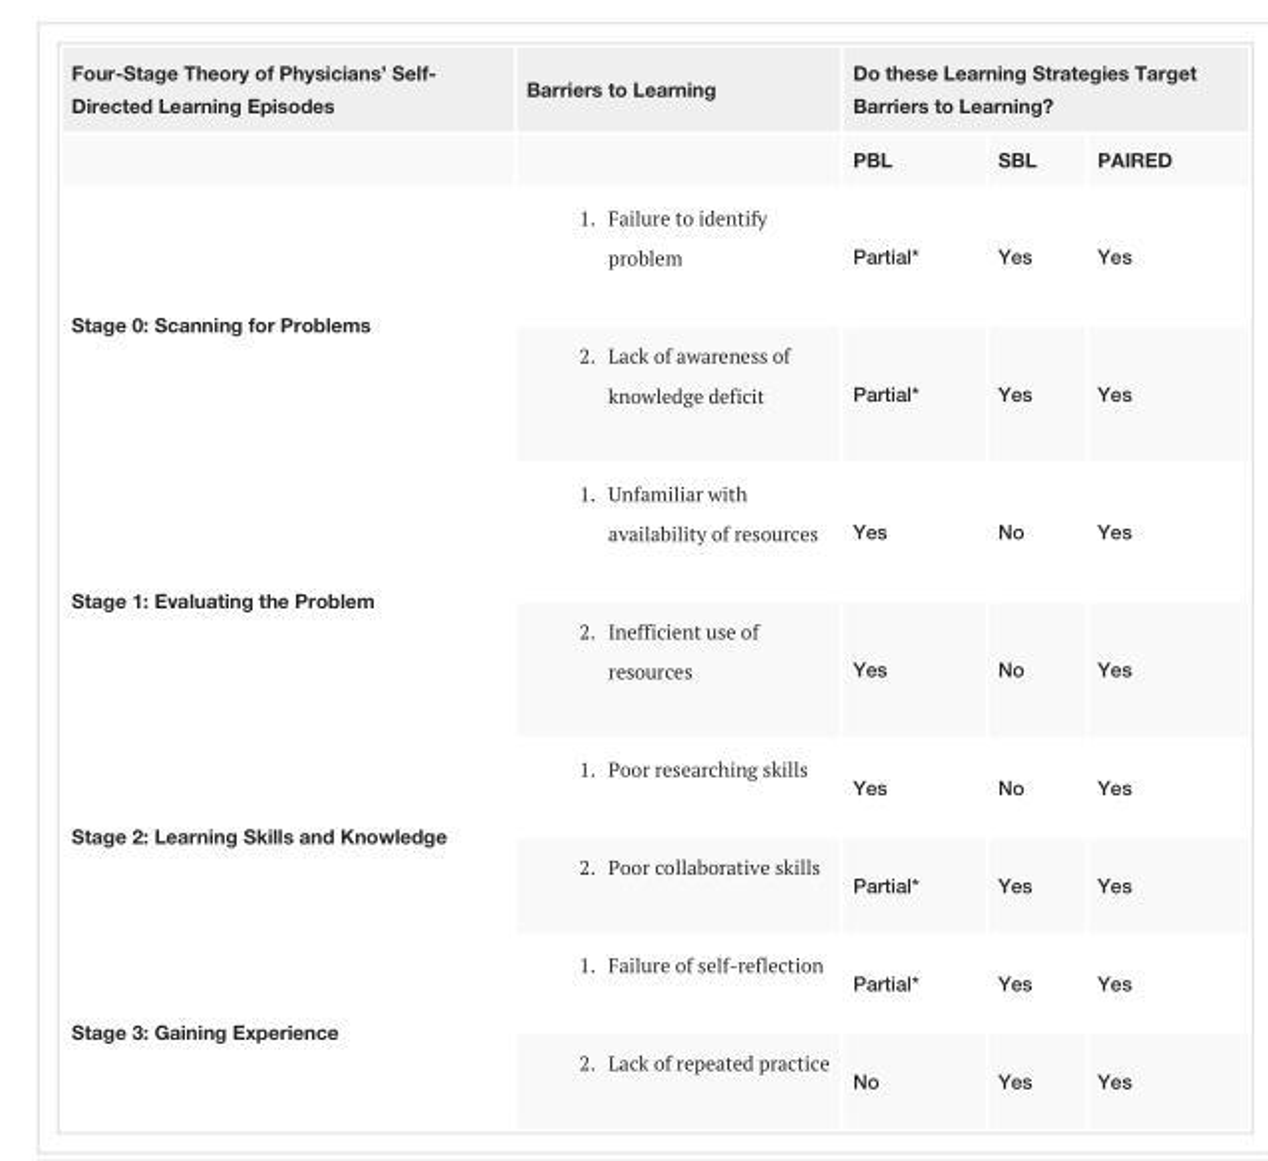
<table><tbody><tr><td rowspan="2">Four-Stage Theory of Physicians’ Self- Directed Learning Episodes</td><td>Barriers to Learning</td><td colspan="3">Do these Learning Strategies Target Barriers to Learning?</td></tr><tr><td></td><td>PBL</td><td>SBL</td><td>PAIRED</td></tr><tr><td rowspan="2">Stage 0: Scanning for Problems</td><td>1. Failure to identify problem</td><td>Partial*</td><td>Yes</td><td>Yes</td></tr><tr><td>2. Lack of awareness of knowledge deficit</td><td>Partial*</td><td>Yes</td><td>Yes</td></tr><tr><td rowspan="2">Stage 1: Evaluating the Problem</td><td>1. Unfamiliar with availability of resources</td><td>Yes</td><td>No</td><td>Yes</td></tr><tr><td>2. Inefficient use of resources</td><td>Yes</td><td>No</td><td>Yes</td></tr><tr><td rowspan="2">Stage 2: Learning Skills and Knowledge</td><td>1. Poor researching skills</td><td>Yes</td><td>No</td><td>Yes</td></tr><tr><td>2. Poor collaborative skills</td><td>Partial*</td><td>Yes</td><td>Yes</td></tr><tr><td rowspan="2">Stage 3: Gaining Experience</td><td>1. Failure of self-reflection</td><td>Partial*</td><td>Yes</td><td>Yes</td></tr><tr><td>2. Lack of repeated practice</td><td>No</td><td>Yes</td><td>Yes</td></tr></tbody></table>